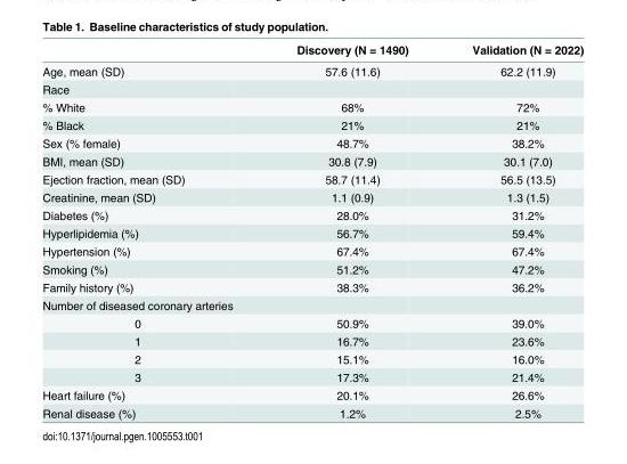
<table><thead><tr><td></td><td>Discovery (N = 1490)</td><td>Validation (N = 2022)</td></tr></thead><tbody><tr><td>Age, mean (SD)</td><td>57.6 (11.6)</td><td>62.2 (11.9)</td></tr><tr><td colspan="3">Race</td></tr><tr><td>% White</td><td>68%</td><td>72%</td></tr><tr><td>% Black</td><td>21%</td><td>21%</td></tr><tr><td>Sex (% female)</td><td>48.7%</td><td>38.2%</td></tr><tr><td>BMI, mean (SD)</td><td>30.8 (7.9)</td><td>30.1 (7.0)</td></tr><tr><td>Ejection fraction, mean (SD)</td><td>58.7 (11.4)</td><td>56.5 (13.5)</td></tr><tr><td>Creatinine, mean (SD)</td><td>1.1 (0.9)</td><td>1.3 (1.5)</td></tr><tr><td>Diabetes (%)</td><td>28.0%</td><td>31.2%</td></tr><tr><td>Hyperlipidemia (%)</td><td>56.7%</td><td>59.4%</td></tr><tr><td>Hypertension (%)</td><td>67.4%</td><td>67.4%</td></tr><tr><td>Smoking (%)</td><td>51.2%</td><td>47.2%</td></tr><tr><td>Family history (%)</td><td>38.3%</td><td>36.2%</td></tr><tr><td colspan="3">Number of diseased coronary arteries</td></tr><tr><td>0</td><td>50.9%</td><td>39.0%</td></tr><tr><td>1</td><td>16.7%</td><td>23.6%</td></tr><tr><td>2</td><td>15.1%</td><td>16.0%</td></tr><tr><td>3</td><td>17.3%</td><td>21.4%</td></tr><tr><td>Heart failure (%)</td><td>20.1%</td><td>26.6%</td></tr><tr><td>Renal disease (%)</td><td>1.2%</td><td>2.5%</td></tr></tbody></table>